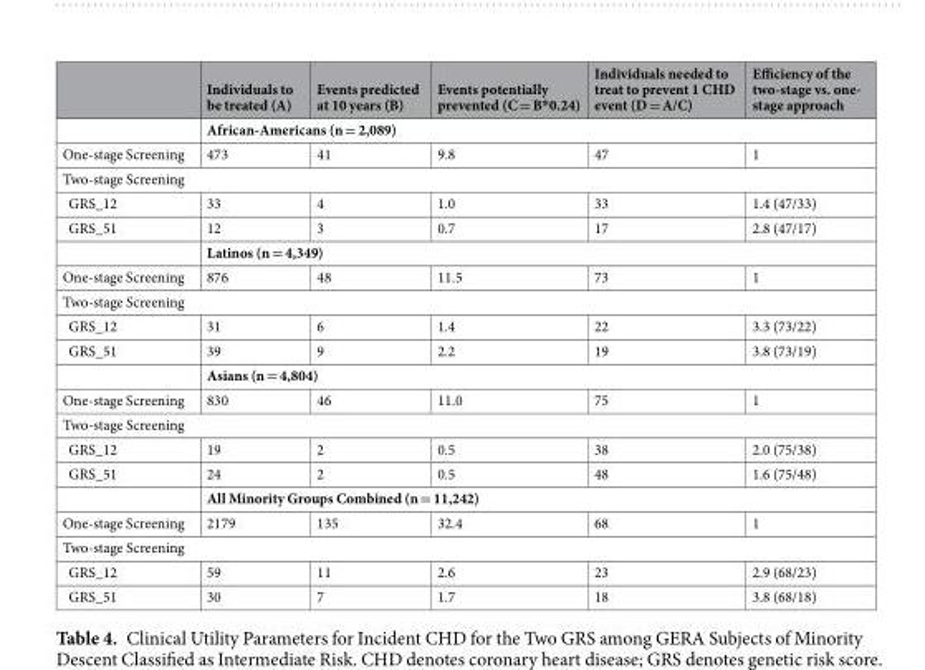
<table><thead><tr><td></td><td>Individuals to be treated (A)</td><td>Events predicted at 10 years (B)</td><td>Events potentially prevented (C = B*0.24)</td><td>Individuals needed to treat to prevent 1 CHD event (D = A/C)</td><td>Efficiency of the two-stage vs. one- stage approach</td></tr></thead><tbody><tr><td></td><td colspan="5">African-Americans (n = 2,089)</td></tr><tr><td>One-stage Screening</td><td>473</td><td>41</td><td>9.8</td><td>47</td><td>1</td></tr><tr><td colspan="6">Two-stage Screening</td></tr><tr><td>GRS_12</td><td>33</td><td>4</td><td>1.0</td><td>33</td><td>1.4 (47/33)</td></tr><tr><td rowspan="2">GRS_51</td><td>12</td><td>3</td><td>0.7</td><td>17</td><td>2.8 (47/17)</td></tr><tr><td colspan="5">Latinos (n = 4,349)</td></tr><tr><td>One-stage Screening</td><td>876</td><td>48</td><td>11.5</td><td>73</td><td>1</td></tr><tr><td colspan="6">Two-stage Screening</td></tr><tr><td>GRS_12</td><td>31</td><td>6</td><td>1.4</td><td>22</td><td>3.3 (73/22)</td></tr><tr><td rowspan="2">GRS_51</td><td>39</td><td>9</td><td>2.2</td><td>19</td><td>3.8 (73/19)</td></tr><tr><td colspan="5">Asians (n = 4,804)</td></tr><tr><td>One-stage Screening</td><td>830</td><td>46</td><td>11.0</td><td>75</td><td>1</td></tr><tr><td colspan="6">Two-stage Screening</td></tr><tr><td>GRS_12</td><td>19</td><td>2</td><td>0.5</td><td>38</td><td>2.0 (75/38)</td></tr><tr><td rowspan="2">GRS_51</td><td>24</td><td>2</td><td>0.5</td><td>48</td><td>1.6 (75/48)</td></tr><tr><td colspan="5">All Minority Groups Combined (n = 11,242)</td></tr><tr><td>One-stage Screening</td><td>2179</td><td>135</td><td>32.4</td><td>68</td><td>1</td></tr><tr><td colspan="6">Two-stage Screening</td></tr><tr><td>GRS_12</td><td>59</td><td>11</td><td>2.6</td><td>23</td><td>2.9 (68/23)</td></tr><tr><td>GRS_51</td><td>30</td><td>7</td><td>1.7</td><td>18</td><td>3.8 (68/18)</td></tr></tbody></table>